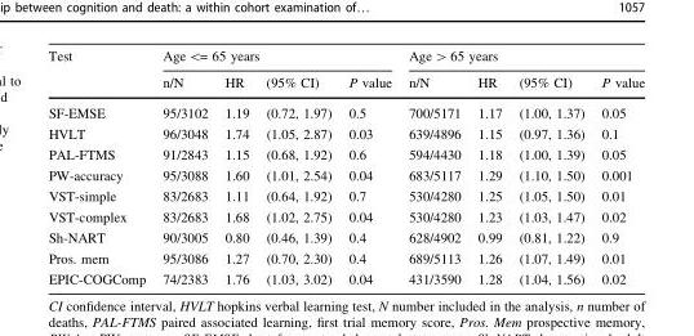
<table><thead><tr><td rowspan="2">Test</td><td colspan="4">Age &lt;= 65 years</td><td colspan="4">Age &gt; 65 years</td></tr><tr><td>n/N</td><td>HR</td><td>(95% CI)</td><td>P value</td><td>n/N</td><td>HR</td><td>(95% CI)</td><td>P value</td></tr></thead><tbody><tr><td>SF-EMSE</td><td>95/3102</td><td>1.19</td><td>(0.72, 1.97)</td><td>0.5</td><td>700/5171</td><td>1.17</td><td>(1.00, 1.37)</td><td>0.05</td></tr><tr><td>HVLT</td><td>96/3048</td><td>1.74</td><td>(1.05, 2.87)</td><td>0.03</td><td>639/4896</td><td>1.15</td><td>(0.97, 1.36)</td><td>0.1</td></tr><tr><td>PAL-FTMS</td><td>91/2843</td><td>1.15</td><td>(0.68, 1.92)</td><td>0.6</td><td>594/4430</td><td>1.18</td><td>(1.00, 1.39)</td><td>0.05</td></tr><tr><td>PW-accuracy</td><td>95/3088</td><td>1.60</td><td>(1.01, 2.54)</td><td>0.04</td><td>683/5117</td><td>1.29</td><td>(1.10, 1.50)</td><td>0.001</td></tr><tr><td>VST-simple</td><td>83/2683</td><td>1.11</td><td>(0.64, 1.92)</td><td>0.7</td><td>530/4280</td><td>1.25</td><td>(1.05, 1.50)</td><td>0.01</td></tr><tr><td>VST-complex</td><td>83/2683</td><td>1.68</td><td>(1.02, 2.75)</td><td>0.04</td><td>530/4280</td><td>1.23</td><td>(1.03, 1.47)</td><td>0.02</td></tr><tr><td>Sh-NART</td><td>90/3005</td><td>0.80</td><td>(0.46, 1.39)</td><td>0.4</td><td>628/4902</td><td>0.99</td><td>(0.81, 1.22)</td><td>0.9</td></tr><tr><td>Pros. mem</td><td>95/3086</td><td>1.27</td><td>(0.70, 2.30)</td><td>0.4</td><td>689/5113</td><td>1.26</td><td>(1.07, 1.49)</td><td>0.01</td></tr><tr><td>EPIC-COGComp</td><td>74/2383</td><td>1.76</td><td>(1.03, 3.02)</td><td>0.04</td><td>431/3590</td><td>1.28</td><td>(1.04, 1.56)</td><td>0.02</td></tr></tbody></table>